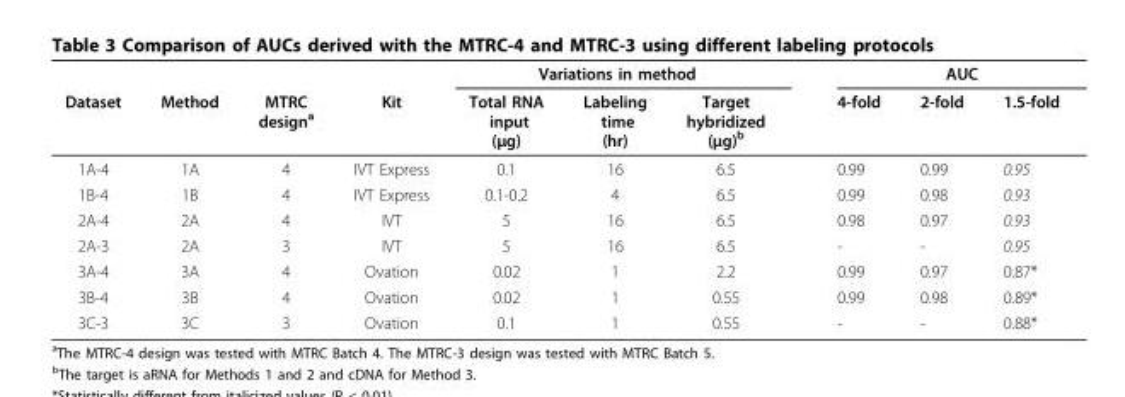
<table><thead><tr><td rowspan="2">Dataset</td><td rowspan="2">Method</td><td rowspan="2">MTRC design<sup>a</sup></td><td rowspan="2">Kit</td><td colspan="3">Variations in method</td><td colspan="3">AUC</td></tr><tr><td>Total RNA input (μg)</td><td>Labeling time (hr)</td><td>Target hybridized (μg)<sup>b</sup></td><td>4-fold</td><td>2-fold</td><td>1.5-fold</td></tr></thead><tbody><tr><td>1A-4</td><td>1A</td><td>4</td><td>IVT Express</td><td>0.1</td><td>16</td><td>6.5</td><td>0.99</td><td>0.99</td><td>0.95</td></tr><tr><td>1B-4</td><td>1B</td><td>4</td><td>IVT Express</td><td>0.1-0.2</td><td>4</td><td>6.5</td><td>0.99</td><td>0.98</td><td>0.93</td></tr><tr><td>2A-4</td><td>2A</td><td>4</td><td>IVT</td><td>5</td><td>16</td><td>6.5</td><td>0.98</td><td>0.97</td><td>0.93</td></tr><tr><td>2A-3</td><td>2A</td><td>3</td><td>IVT</td><td>5</td><td>16</td><td>6.5</td><td>-</td><td>-</td><td>0.95</td></tr><tr><td>3A-4</td><td>3A</td><td>4</td><td>Ovation</td><td>0.02</td><td>1</td><td>2.2</td><td>0.99</td><td>0.97</td><td>0.87*</td></tr><tr><td>3B-4</td><td>3B</td><td>4</td><td>Ovation</td><td>0.02</td><td>1</td><td>0.55</td><td>0.99</td><td>0.98</td><td>0.89*</td></tr><tr><td>3C-3</td><td>3C</td><td>3</td><td>Ovation</td><td>0.1</td><td>1</td><td>0.55</td><td>-</td><td>-</td><td>0.88*</td></tr></tbody></table>